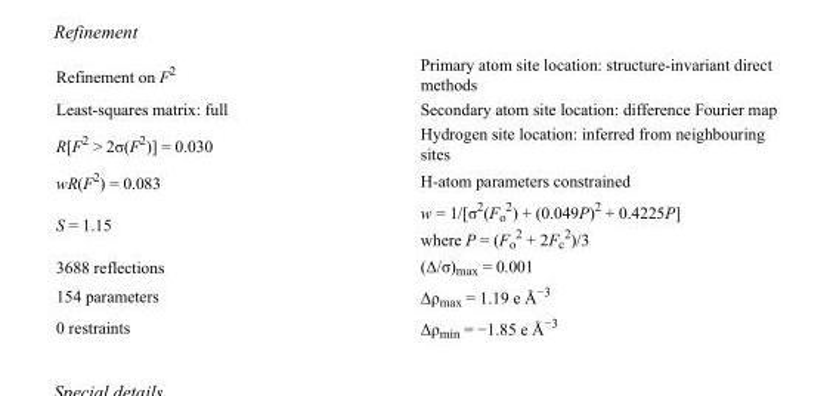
<table><tbody><tr><td>Refinement on F<sup>2</sup></td><td>Primary atom site location: structure-invariant direct methods</td></tr><tr><td>Least-squares matrix: full</td><td>Secondary atom site location: difference Fourier map</td></tr><tr><td>R[F<sup>2</sup> &gt; 2σ(F<sup>2</sup>)] = 0.030</td><td>Hydrogen site location: inferred from neighbouring sites</td></tr><tr><td>wR(F<sup>2</sup>) = 0.083</td><td>H-atom parameters constrained</td></tr><tr><td>S = 1.15</td><td>w = 1/[σ<sup>2</sup>(F<sub>o</sub> <sup>2</sup>) + (0.049P)<sup>2</sup> + 0.4225P] where P = (F<sub>o</sub> <sup>2</sup> + 2F<sub>c</sub> <sup>2</sup>)/3</td></tr><tr><td>3688 reflections</td><td>(Δ/σ)<sub>max</sub> = 0.001</td></tr><tr><td>154 parameters</td><td>Δρ<sub>max</sub> = 1.19 e Å<sup>−3</sup></td></tr><tr><td>0 restraints</td><td>Δρ<sub>min</sub> = −1.85 e Å<sup>−3</sup></td></tr></tbody></table>